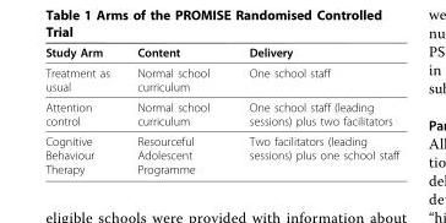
<table><thead><tr><td>Study Arm</td><td>Content</td><td>Delivery</td></tr></thead><tbody><tr><td>Treatment as usual</td><td>Normal school curriculum</td><td>One school staff</td></tr><tr><td>Attention control</td><td>Normal school curriculum</td><td>One school staff (leading sessions) plus two facilitators</td></tr><tr><td>Cognitive Behaviour Therapy</td><td>Resourceful Adolescent Programme</td><td>Two facilitators (leading sessions) plus one school staff</td></tr></tbody></table>